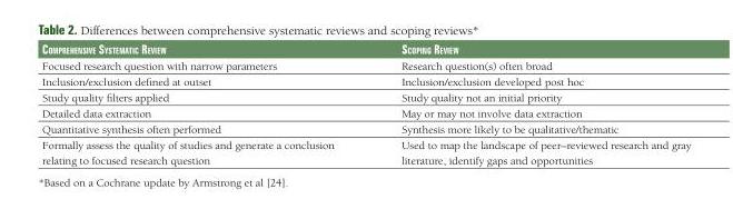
<table><thead><tr><td>Comprehensive systematiC review</td><td>sCoping review</td></tr></thead><tbody><tr><td>Focused research question with narrow parameters</td><td>Research question(s) often broad</td></tr><tr><td>Inclusion/exclusion defined at outset</td><td>Inclusion/exclusion developed post hoc</td></tr><tr><td>Study quality filters applied</td><td>Study quality not an initial priority</td></tr><tr><td>Detailed data extraction</td><td>May or may not involve data extraction</td></tr><tr><td>Quantitative synthesis often performed</td><td>Synthesis more likely to be qualitative/thematic</td></tr><tr><td>Formally assess the quality of studies and generate a conclusion relating to focused research question</td><td>Used to map the landscape of peer–reviewed research and gray literature, identify gaps and opportunities</td></tr></tbody></table>